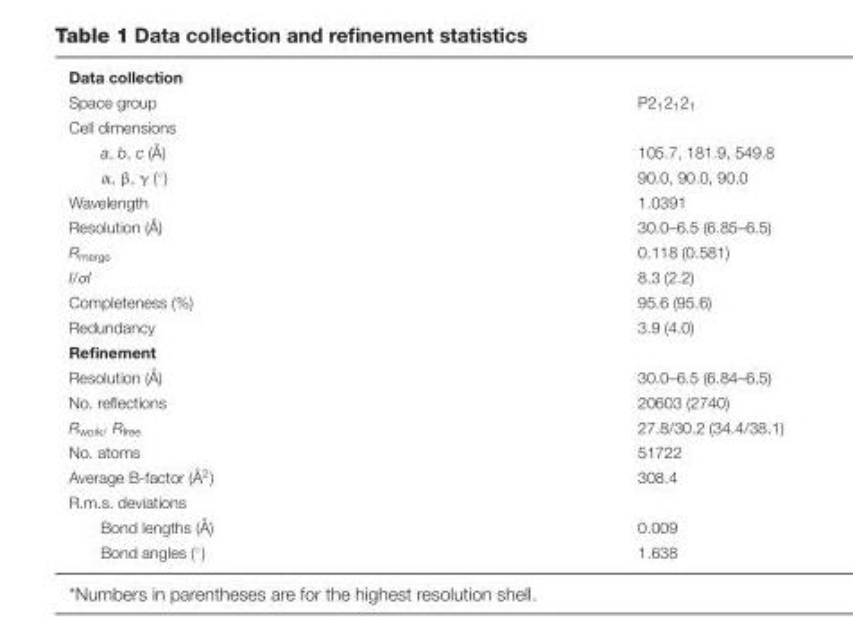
<table><tbody><tr><td colspan="2">Data collection</td></tr><tr><td>Space group</td><td>P2<sub>1</sub>2<sub>1</sub>2<sub>1</sub></td></tr><tr><td colspan="2">Cell dimensions</td></tr><tr><td>a, b, c ( ˚A)</td><td>105.7, 181.9, 549.8</td></tr><tr><td>α, β, γ (◦)</td><td>90.0, 90.0, 90.0</td></tr><tr><td>Wavelength</td><td>1.0391</td></tr><tr><td>Resolution ( ˚A)</td><td>30.0–6.5 (6.85–6.5)</td></tr><tr><td>R<sub>merge</sub></td><td>0.118 (0.581)</td></tr><tr><td>I/σI</td><td>8.3 (2.2)</td></tr><tr><td>Completeness (%)</td><td>95.6 (95.6)</td></tr><tr><td>Redundancy</td><td>3.9 (4.0)</td></tr><tr><td colspan="2">Refinement</td></tr><tr><td>Resolution ( ˚A)</td><td>30.0–6.5 (6.84–6.5)</td></tr><tr><td>No. reflections</td><td>20603 (2740)</td></tr><tr><td>R<sub>work/</sub> R<sub>free</sub></td><td>27.8/30.2 (34.4/38.1)</td></tr><tr><td>No. atoms</td><td>51722</td></tr><tr><td>Average B-factor ( ˚A2)</td><td>308.4</td></tr><tr><td colspan="2">R.m.s. deviations</td></tr><tr><td>Bond lengths ( ˚A)</td><td>0.009</td></tr><tr><td>Bond angles (◦)</td><td>1.638</td></tr></tbody></table>